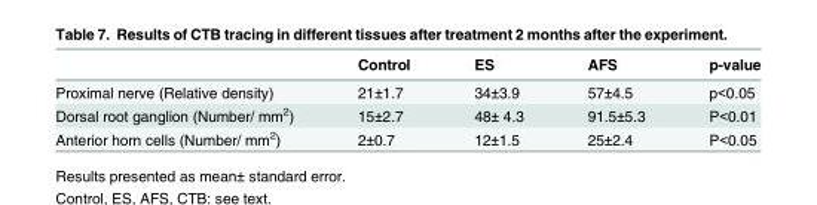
<table><thead><tr><td></td><td>Control</td><td>ES</td><td>AFS</td><td>p-value</td></tr></thead><tbody><tr><td>Proximal nerve (Relative density)</td><td>21±1.7</td><td>34±3.9</td><td>57±4.5</td><td>p&lt;0.05</td></tr><tr><td>Dorsal root ganglion (Number/ mm<sup>2</sup>)</td><td>15±2.7</td><td>48± 4.3</td><td>91.5±5.3</td><td>P&lt;0.01</td></tr><tr><td>Anterior horn cells (Number/ mm<sup>2</sup>)</td><td>2±0.7</td><td>12±1.5</td><td>25±2.4</td><td>P&lt;0.05</td></tr></tbody></table>